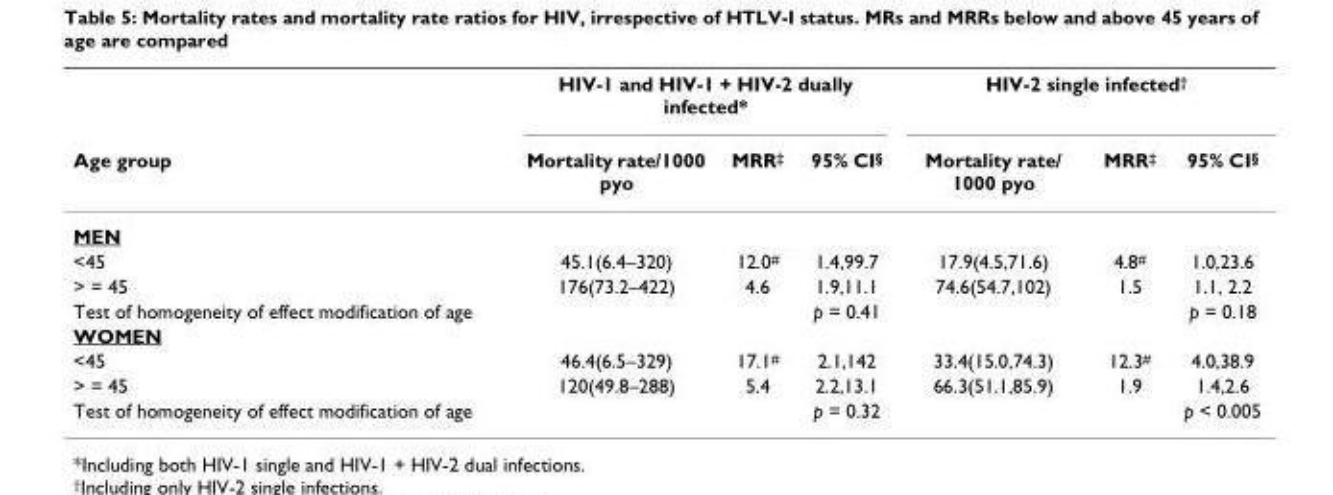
<table><thead><tr><td rowspan="2">Age group</td><td colspan="3">HIV-1 and HIV-1 + HIV-2 dually infected*</td><td colspan="3">HIV-2 single infected<sup>†</sup></td></tr><tr><td>Mortality rate/1000 pyo</td><td>MRR<sup>‡</sup></td><td>95% CI<sup>§</sup></td><td>Mortality rate/ 1000 pyo</td><td>MRR<sup>‡</sup></td><td>95% CI<sup>§</sup></td></tr></thead><tbody><tr><td colspan="7">MEN</td></tr><tr><td>&lt;45</td><td>45.1(6.4–320)</td><td>12.0<sup>#</sup></td><td>1.4,99.7</td><td>17.9(4.5,71.6)</td><td>4.8<sup>#</sup></td><td>1.0,23.6</td></tr><tr><td>&gt; = 45</td><td>176(73.2–422)</td><td>4.6</td><td>1.9,11.1</td><td>74.6(54.7,102)</td><td>1.5</td><td>1.1, 2.2</td></tr><tr><td>Test of homogeneity of effect modification of age</td><td></td><td></td><td>p = 0.41</td><td></td><td></td><td>p = 0.18</td></tr><tr><td colspan="7">WOMEN</td></tr><tr><td>&lt;45</td><td>46.4(6.5–329)</td><td>17.1<sup>#</sup></td><td>2.1,142</td><td>33.4(15.0,74.3)</td><td>12.3<sup>#</sup></td><td>4.0,38.9</td></tr><tr><td>&gt; = 45</td><td>120(49.8–288)</td><td>5.4</td><td>2.2,13.1</td><td>66.3(51.1,85.9)</td><td>1.9</td><td>1.4,2.6</td></tr><tr><td>Test of homogeneity of effect modification of age</td><td></td><td></td><td>p = 0.32</td><td></td><td></td><td>p &lt; 0.005</td></tr></tbody></table>